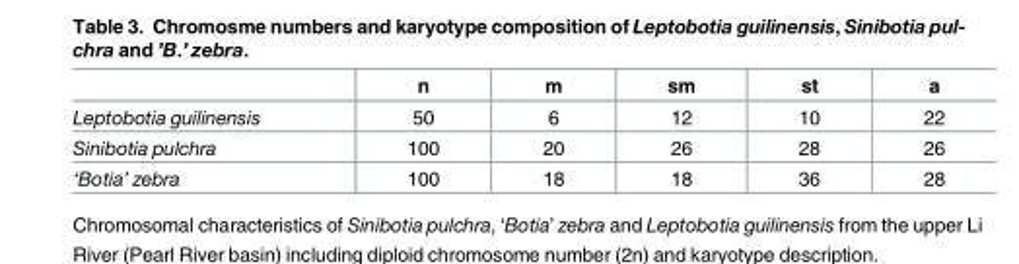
<table><thead><tr><td></td><td>n</td><td>m</td><td>sm</td><td>st</td><td>a</td></tr></thead><tbody><tr><td>Leptobotia guilinensis</td><td>50</td><td>6</td><td>12</td><td>10</td><td>22</td></tr><tr><td>Sinibotia pulchra</td><td>100</td><td>20</td><td>26</td><td>28</td><td>26</td></tr><tr><td>‘Botia’ zebra</td><td>100</td><td>18</td><td>18</td><td>36</td><td>28</td></tr></tbody></table>